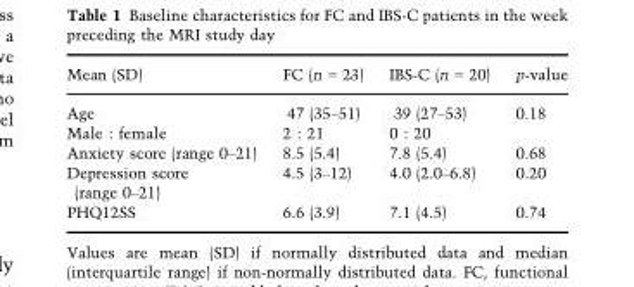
<table><thead><tr><td>Mean (SD)</td><td>FC (n = 23)</td><td>IBS-C (n = 20)</td><td>p-value</td></tr></thead><tbody><tr><td>Age</td><td>47 (35–51)</td><td>39 (27–53)</td><td>0.18</td></tr><tr><td>Male : female</td><td>2 : 21</td><td>0 : 20</td><td></td></tr><tr><td>Anxiety score (range 0–21)</td><td>8.5 (5.4)</td><td>7.8 (5.4)</td><td>0.68</td></tr><tr><td>Depression score (range 0–21)</td><td>4.5 (3–12)</td><td>4.0 (2.0–6.8)</td><td>0.20</td></tr><tr><td>PHQ12SS</td><td>6.6 (3.9)</td><td>7.1 (4.5)</td><td>0.74</td></tr></tbody></table>